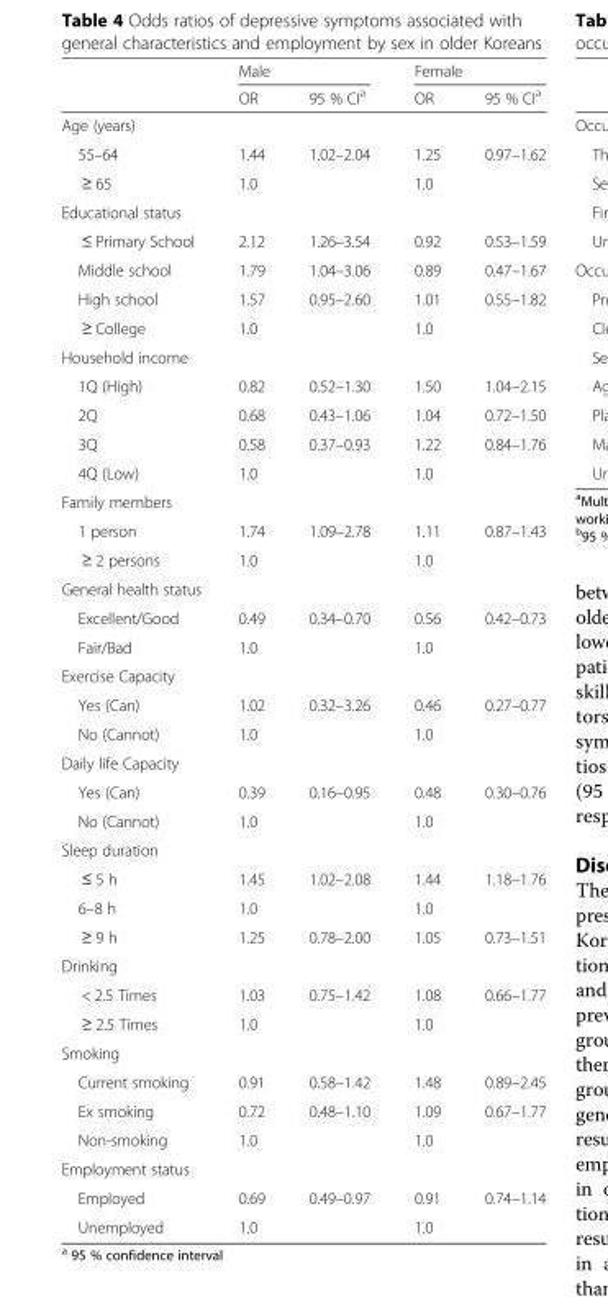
<table><thead><tr><td rowspan="2"></td><td colspan="2">Male</td><td colspan="2">Female</td></tr><tr><td>OR</td><td>95 % CI<sup>a</sup></td><td>OR</td><td>95 % CI<sup>a</sup></td></tr></thead><tbody><tr><td colspan="5">Age (years)</td></tr><tr><td>55–64</td><td>1.44</td><td>1.02–2.04</td><td>1.25</td><td>0.97–1.62</td></tr><tr><td>≥ 65</td><td>1.0</td><td></td><td>1.0</td><td></td></tr><tr><td colspan="5">Educational status</td></tr><tr><td>≤ Primary School</td><td>2.12</td><td>1.26–3.54</td><td>0.92</td><td>0.53–1.59</td></tr><tr><td>Middle school</td><td>1.79</td><td>1.04–3.06</td><td>0.89</td><td>0.47–1.67</td></tr><tr><td>High school</td><td>1.57</td><td>0.95–2.60</td><td>1.01</td><td>0.55–1.82</td></tr><tr><td>≥ College</td><td>1.0</td><td></td><td>1.0</td><td></td></tr><tr><td colspan="5">Household income</td></tr><tr><td>1Q (High)</td><td>0.82</td><td>0.52–1.30</td><td>1.50</td><td>1.04–2.15</td></tr><tr><td>2Q</td><td>0.68</td><td>0.43–1.06</td><td>1.04</td><td>0.72–1.50</td></tr><tr><td>3Q</td><td>0.58</td><td>0.37–0.93</td><td>1.22</td><td>0.84–1.76</td></tr><tr><td>4Q (Low)</td><td>1.0</td><td></td><td>1.0</td><td></td></tr><tr><td colspan="5">Family members</td></tr><tr><td>1 person</td><td>1.74</td><td>1.09–2.78</td><td>1.11</td><td>0.87–1.43</td></tr><tr><td>≥ 2 persons</td><td>1.0</td><td></td><td>1.0</td><td></td></tr><tr><td colspan="5">General health status</td></tr><tr><td>Excellent/Good</td><td>0.49</td><td>0.34–0.70</td><td>0.56</td><td>0.42–0.73</td></tr><tr><td>Fair/Bad</td><td>1.0</td><td></td><td>1.0</td><td></td></tr><tr><td colspan="5">Exercise Capacity</td></tr><tr><td>Yes (Can)</td><td>1.02</td><td>0.32–3.26</td><td>0.46</td><td>0.27–0.77</td></tr><tr><td>No (Cannot)</td><td>1.0</td><td></td><td>1.0</td><td></td></tr><tr><td colspan="5">Daily life Capacity</td></tr><tr><td>Yes (Can)</td><td>0.39</td><td>0.16–0.95</td><td>0.48</td><td>0.30–0.76</td></tr><tr><td>No (Cannot)</td><td>1.0</td><td></td><td>1.0</td><td></td></tr><tr><td colspan="5">Sleep duration</td></tr><tr><td>≤ 5 h</td><td>1.45</td><td>1.02–2.08</td><td>1.44</td><td>1.18–1.76</td></tr><tr><td>6–8 h</td><td>1.0</td><td></td><td>1.0</td><td></td></tr><tr><td>≥ 9 h</td><td>1.25</td><td>0.78–2.00</td><td>1.05</td><td>0.73–1.51</td></tr><tr><td colspan="5">Drinking</td></tr><tr><td>&lt; 2.5 Times</td><td>1.03</td><td>0.75–1.42</td><td>1.08</td><td>0.66–1.77</td></tr><tr><td>≥ 2.5 Times</td><td>1.0</td><td></td><td>1.0</td><td></td></tr><tr><td colspan="5">Smoking</td></tr><tr><td>Current smoking</td><td>0.91</td><td>0.58–1.42</td><td>1.48</td><td>0.89–2.45</td></tr><tr><td>Ex smoking</td><td>0.72</td><td>0.48–1.10</td><td>1.09</td><td>0.67–1.77</td></tr><tr><td>Non-smoking</td><td>1.0</td><td></td><td>1.0</td><td></td></tr><tr><td colspan="5">Employment status</td></tr><tr><td>Employed</td><td>0.69</td><td>0.49–0.97</td><td>0.91</td><td>0.74–1.14</td></tr><tr><td>Unemployed</td><td>1.0</td><td></td><td>1.0</td><td></td></tr></tbody></table>